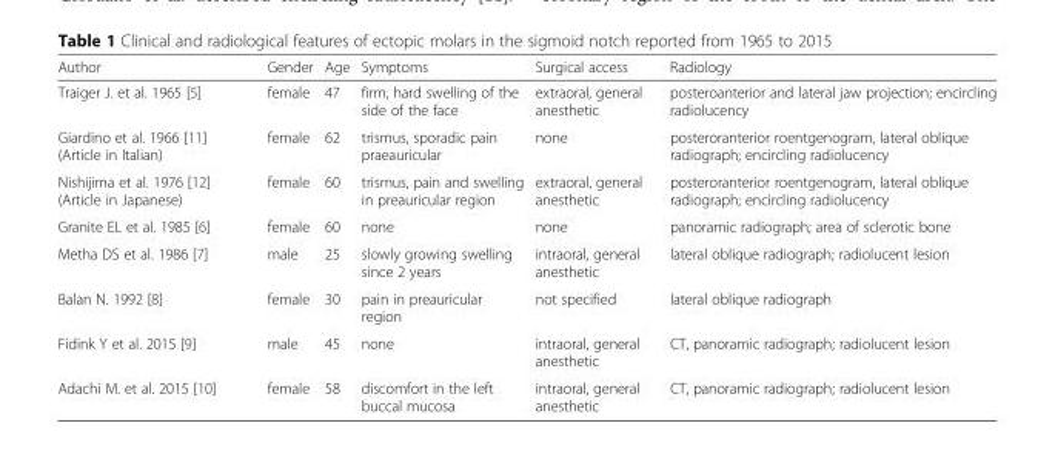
<table><thead><tr><td>Author</td><td>Gender</td><td>Age</td><td>Symptoms</td><td>Surgical access</td><td>Radiology</td></tr></thead><tbody><tr><td>Traiger J. et al. 1965 [5]</td><td>female</td><td>47</td><td>firm, hard swelling of the side of the face</td><td>extraoral, general anesthetic</td><td>posteroanterior and lateral jaw projection; encircling radiolucency</td></tr><tr><td>Giardino et al. 1966 [11] (Article in Italian)</td><td>female</td><td>62</td><td>trismus, sporadic pain praeauricular</td><td>none</td><td>posteroranterior roentgenogram, lateral oblique radiograph; encircling radiolucency</td></tr><tr><td>Nishijima et al. 1976 [12] (Article in Japanese)</td><td>female</td><td>60</td><td>trismus, pain and swelling in preauricular region</td><td>extraoral, general anesthetic</td><td>posteroranterior roentgenogram, lateral oblique radiograph; encircling radiolucency</td></tr><tr><td>Granite EL et al. 1985 [6]</td><td>female</td><td>60</td><td>none</td><td>none</td><td>panoramic radiograph; area of sclerotic bone</td></tr><tr><td>Metha DS et al. 1986 [7]</td><td>male</td><td>25</td><td>slowly growing swelling since 2 years</td><td>intraoral, general anesthetic</td><td>lateral oblique radiograph; radiolucent lesion</td></tr><tr><td>Balan N. 1992 [8]</td><td>female</td><td>30</td><td>pain in preauricular region</td><td>not specified</td><td>lateral oblique radiograph</td></tr><tr><td>Fidink Y et al. 2015 [9]</td><td>male</td><td>45</td><td>none</td><td>intraoral, general anesthetic</td><td>CT, panoramic radiograph; radiolucent lesion</td></tr><tr><td>Adachi M. et al. 2015 [10]</td><td>female</td><td>58</td><td>discomfort in the left buccal mucosa</td><td>intraoral, general anesthetic</td><td>CT, panoramic radiograph; radiolucent lesion</td></tr></tbody></table>